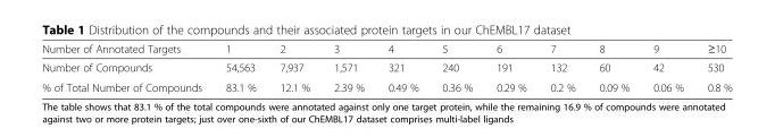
<table><thead><tr><td>Number of Annotated Targets</td><td>1</td><td>2</td><td>3</td><td>4</td><td>5</td><td>6</td><td>7</td><td>8</td><td>9</td><td>≥10</td></tr></thead><tbody><tr><td>Number of Compounds</td><td>54,563</td><td>7,937</td><td>1,571</td><td>321</td><td>240</td><td>191</td><td>132</td><td>60</td><td>42</td><td>530</td></tr><tr><td>% of Total Number of Compounds</td><td>83.1 %</td><td>12.1 %</td><td>2.39 %</td><td>0.49 %</td><td>0.36 %</td><td>0.29 %</td><td>0.2 %</td><td>0.09 %</td><td>0.06 %</td><td>0.8 %</td></tr></tbody></table>